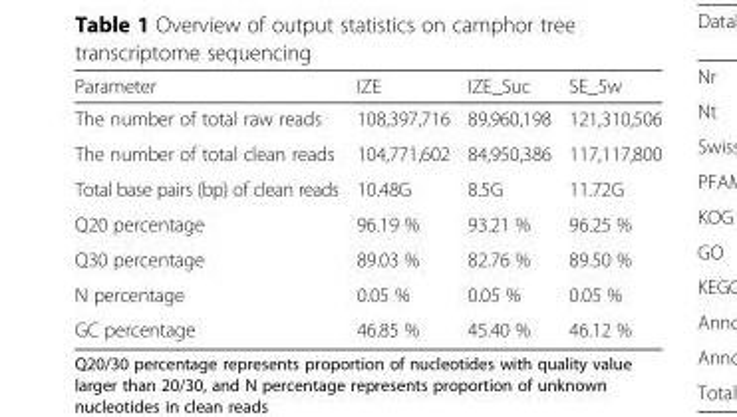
<table><thead><tr><td>Parameter</td><td>IZE</td><td>IZE_Suc</td><td>SE_5w</td></tr></thead><tbody><tr><td>The number of total raw reads</td><td>108,397,716</td><td>89,960,198</td><td>121,310,506</td></tr><tr><td>The number of total clean reads</td><td>104,771,602</td><td>84,950,386</td><td>117,117,800</td></tr><tr><td>Total base pairs (bp) of clean reads</td><td>10.48G</td><td>8.5G</td><td>11.72G</td></tr><tr><td>Q20 percentage</td><td>96.19 %</td><td>93.21 %</td><td>96.25 %</td></tr><tr><td>Q30 percentage</td><td>89.03 %</td><td>82.76 %</td><td>89.50 %</td></tr><tr><td>N percentage</td><td>0.05 %</td><td>0.05 %</td><td>0.05 %</td></tr><tr><td>GC percentage</td><td>46.85 %</td><td>45.40 %</td><td>46.12 %</td></tr></tbody></table>